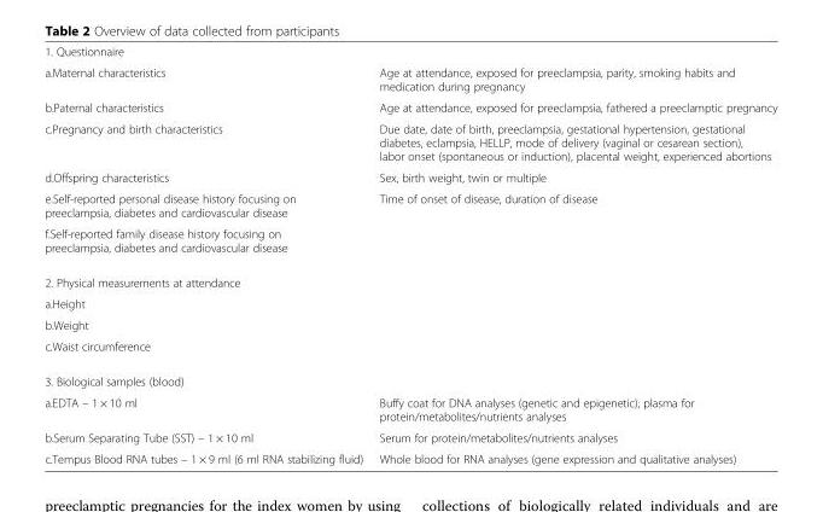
<table><tbody><tr><td colspan="2">1. Questionnaire</td></tr><tr><td>a.Maternal characteristics</td><td>Age at attendance, exposed for preeclampsia, parity, smoking habits and medication during pregnancy</td></tr><tr><td>b.Paternal characteristics</td><td>Age at attendance, exposed for preeclampsia, fathered a preeclamptic pregnancy</td></tr><tr><td>c.Pregnancy and birth characteristics</td><td>Due date, date of birth, preeclampsia, gestational hypertension, gestational diabetes, eclampsia, HELLP, mode of delivery (vaginal or cesarean section), labor onset (spontaneous or induction), placental weight, experienced abortions</td></tr><tr><td>d.Offspring characteristics</td><td>Sex, birth weight, twin or multiple</td></tr><tr><td>e.Self-reported personal disease history focusing on preeclampsia, diabetes and cardiovascular disease</td><td>Time of onset of disease, duration of disease</td></tr><tr><td colspan="2">f.Self-reported family disease history focusing on preeclampsia, diabetes and cardiovascular disease</td></tr><tr><td colspan="2">2. Physical measurements at attendance</td></tr><tr><td colspan="2">a.Height</td></tr><tr><td colspan="2">b.Weight</td></tr><tr><td colspan="2">c.Waist circumference</td></tr><tr><td colspan="2">3. Biological samples (blood)</td></tr><tr><td>a.EDTA – 1 × 10 ml</td><td>Buffy coat for DNA analyses (genetic and epigenetic), plasma for protein/metabolites/nutrients analyses</td></tr><tr><td>b.Serum Separating Tube (SST) – 1 × 10 ml</td><td>Serum for protein/metabolites/nutrients analyses</td></tr><tr><td>c.Tempus Blood RNA tubes – 1 × 9 ml (6 ml RNA stabilizing fluid)</td><td>Whole blood for RNA analyses (gene expression and qualitative analyses)</td></tr></tbody></table>